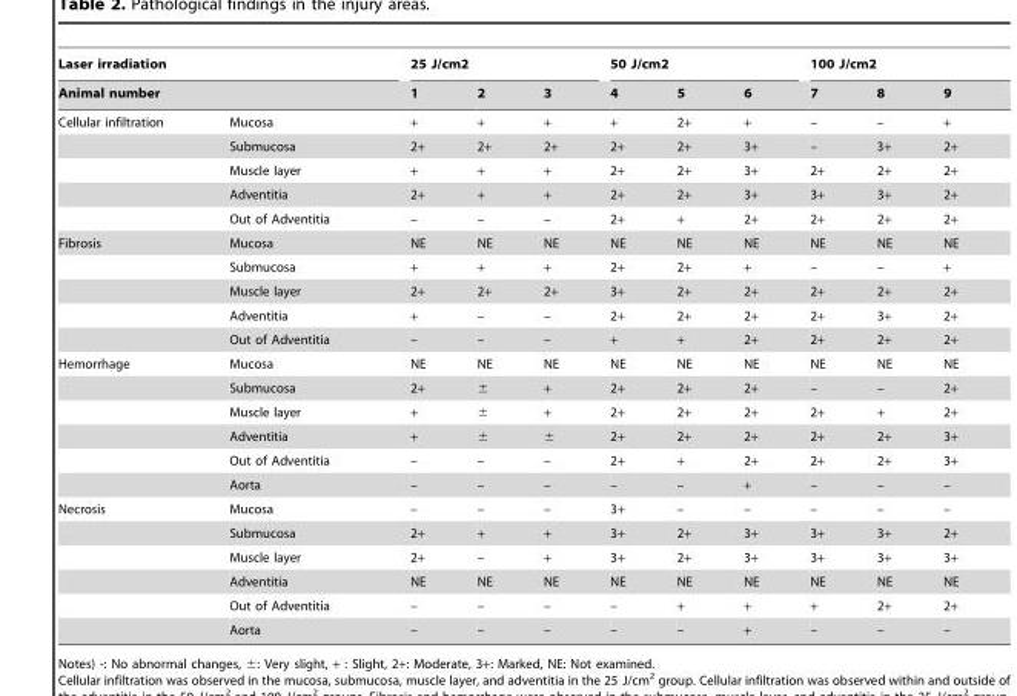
<table><thead><tr><td rowspan="2" colspan="2">Laser irradiation Animal number</td><td colspan="3">25 J/cm2</td><td colspan="3">50 J/cm2</td><td colspan="3">100 J/cm2</td></tr><tr><td rowspan="2">1 +</td><td rowspan="2">2 +</td><td rowspan="2">3 +</td><td rowspan="2">4 +</td><td rowspan="2">5 2+</td><td rowspan="2">6 +</td><td rowspan="2">7 –</td><td rowspan="2">8 –</td><td rowspan="2">9 +</td></tr><tr><td>Cellular infiltration</td><td>Mucosa</td></tr></thead><tbody><tr><td></td><td>Submucosa</td><td>2+</td><td>2+</td><td>2+</td><td>2+</td><td>2+</td><td>3+</td><td>–</td><td>3+</td><td>2+</td></tr><tr><td></td><td>Muscle layer</td><td>+</td><td>+</td><td>+</td><td>2+</td><td>2+</td><td>3+</td><td>2+</td><td>2+</td><td>2+</td></tr><tr><td></td><td>Adventitia</td><td>2+</td><td>+</td><td>+</td><td>2+</td><td>2+</td><td>3+</td><td>3+</td><td>3+</td><td>2+</td></tr><tr><td></td><td>Out of Adventitia</td><td>–</td><td>–</td><td>–</td><td>2+</td><td>+</td><td>2+</td><td>2+</td><td>2+</td><td>2+</td></tr><tr><td rowspan="5">Fibrosis</td><td>Mucosa</td><td>NE</td><td>NE</td><td>NE</td><td>NE</td><td>NE</td><td>NE</td><td>NE</td><td>NE</td><td>NE</td></tr><tr><td>Submucosa</td><td>+</td><td>+</td><td>+</td><td>2+</td><td>2+</td><td>+</td><td>–</td><td>–</td><td>+</td></tr><tr><td>Muscle layer</td><td>2+</td><td>2+</td><td>2+</td><td>3+</td><td>2+</td><td>2+</td><td>2+</td><td>2+</td><td>2+</td></tr><tr><td>Adventitia</td><td>+</td><td>–</td><td>–</td><td>2+</td><td>2+</td><td>2+</td><td>2+</td><td>3+</td><td>2+</td></tr><tr><td>Out of Adventitia</td><td>–</td><td>–</td><td>–</td><td>+</td><td>+</td><td>2+</td><td>2+</td><td>2+</td><td>2+</td></tr><tr><td rowspan="6">Hemorrhage</td><td>Mucosa</td><td>NE</td><td>NE</td><td>NE</td><td>NE</td><td>NE</td><td>NE</td><td>NE</td><td>NE</td><td>NE</td></tr><tr><td>Submucosa</td><td>2+</td><td>±</td><td>+</td><td>2+</td><td>2+</td><td>2+</td><td>–</td><td>–</td><td>2+</td></tr><tr><td>Muscle layer</td><td>+</td><td>±</td><td>+</td><td>2+</td><td>2+</td><td>2+</td><td>2+</td><td>+</td><td>2+</td></tr><tr><td>Adventitia</td><td>+</td><td>±</td><td>±</td><td>2+</td><td>2+</td><td>2+</td><td>2+</td><td>2+</td><td>3+</td></tr><tr><td>Out of Adventitia</td><td>–</td><td>–</td><td>–</td><td>2+</td><td>+</td><td>2+</td><td>2+</td><td>2+</td><td>3+</td></tr><tr><td>Aorta</td><td>–</td><td>–</td><td>–</td><td>–</td><td>–</td><td>+</td><td>–</td><td>–</td><td>–</td></tr><tr><td rowspan="6">Necrosis</td><td>Mucosa</td><td>–</td><td>–</td><td>–</td><td>3+</td><td>–</td><td>–</td><td>–</td><td>–</td><td>–</td></tr><tr><td>Submucosa</td><td>2+</td><td>+</td><td>+</td><td>3+</td><td>2+</td><td>3+</td><td>3+</td><td>3+</td><td>2+</td></tr><tr><td>Muscle layer</td><td>2+</td><td>–</td><td>+</td><td>3+</td><td>2+</td><td>3+</td><td>3+</td><td>3+</td><td>3+</td></tr><tr><td>Adventitia</td><td>NE</td><td>NE</td><td>NE</td><td>NE</td><td>NE</td><td>NE</td><td>NE</td><td>NE</td><td>NE</td></tr><tr><td>Out of Adventitia</td><td>–</td><td>–</td><td>–</td><td>–</td><td>+</td><td>+</td><td>+</td><td>2+</td><td>2+</td></tr><tr><td>Aorta</td><td>–</td><td>–</td><td>–</td><td>–</td><td>–</td><td>+</td><td>–</td><td>–</td><td>–</td></tr></tbody></table>